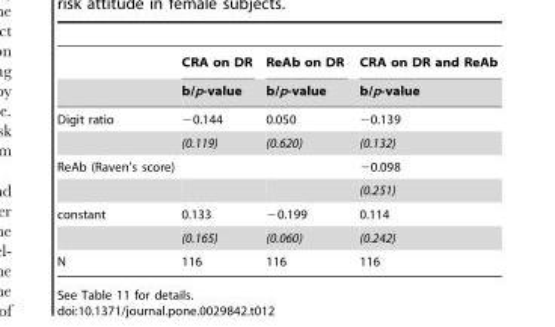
<table><thead><tr><td rowspan="2"></td><td rowspan="2">CRA on DR b/p-value</td><td rowspan="2">ReAb on DR b/p-value</td><td rowspan="2">CRA on DR and ReAb b/p-value</td></tr><tr></tr></thead><tbody><tr><td rowspan="2">Digit ratio</td><td>−0.144</td><td>0.050</td><td>−0.139</td></tr><tr><td>(0.119)</td><td>(0.620)</td><td>(0.132)</td></tr><tr><td rowspan="2">ReAb (Raven’s score)</td><td></td><td></td><td>−0.098</td></tr><tr><td></td><td></td><td>(0.251)</td></tr><tr><td rowspan="2">constant</td><td>0.133</td><td>−0.199</td><td>0.114</td></tr><tr><td>(0.165)</td><td>(0.060)</td><td>(0.242)</td></tr><tr><td>N</td><td>116</td><td>116</td><td>116</td></tr></tbody></table>